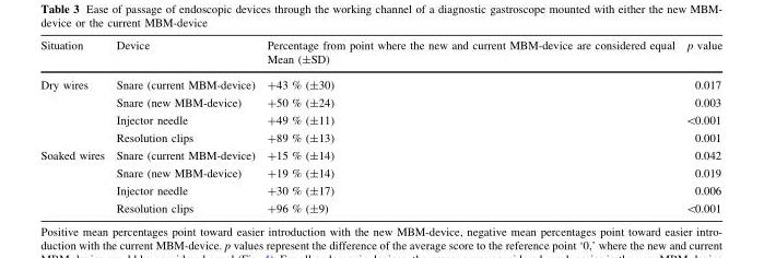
<table><thead><tr><td>Situation</td><td>Device</td><td>Percentage from point where the new and current MBM-device are considered equal Mean (±SD)</td><td>p value</td></tr></thead><tbody><tr><td rowspan="4">Dry wires</td><td>Snare (current MBM-device)</td><td>+43 % (±30)</td><td>0.017</td></tr><tr><td>Snare (new MBM-device)</td><td>+50 % (±24)</td><td>0.003</td></tr><tr><td>Injector needle</td><td>+49 % (±11)</td><td>&lt;0.001</td></tr><tr><td>Resolution clips</td><td>+89 % (±13)</td><td>0.001</td></tr><tr><td rowspan="4">Soaked wires</td><td>Snare (current MBM-device)</td><td>+15 % (±14)</td><td>0.042</td></tr><tr><td>Snare (new MBM-device)</td><td>+19 % (±14)</td><td>0.019</td></tr><tr><td>Injector needle</td><td>+30 % (±17)</td><td>0.006</td></tr><tr><td>Resolution clips</td><td>+96 % (±9)</td><td>&lt;0.001</td></tr></tbody></table>